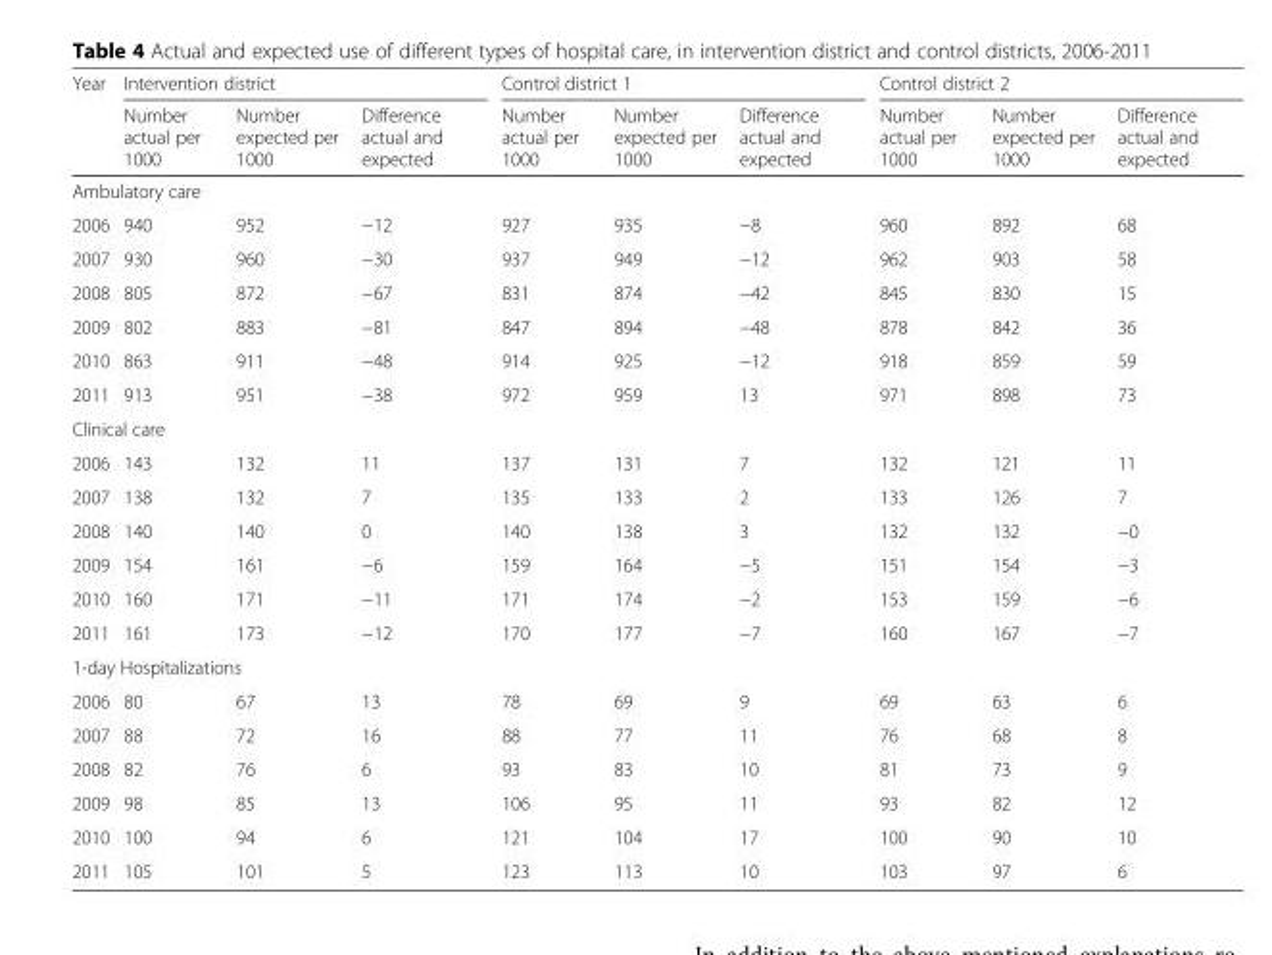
<table><thead><tr><td rowspan="2">Year</td><td colspan="3">Intervention district</td><td colspan="3">Control district 1</td><td colspan="3">Control district 2</td></tr><tr><td>Number actual per 1000</td><td>Number expected per 1000</td><td>Difference actual and expected</td><td>Number actual per 1000</td><td>Number expected per 1000</td><td>Difference actual and expected</td><td>Number actual per 1000</td><td>Number expected per 1000</td><td>Difference actual and expected</td></tr></thead><tbody><tr><td colspan="10">Ambulatory care</td></tr><tr><td>2006</td><td>940</td><td>952</td><td>−12</td><td>927</td><td>935</td><td>−8</td><td>960</td><td>892</td><td>68</td></tr><tr><td>2007</td><td>930</td><td>960</td><td>−30</td><td>937</td><td>949</td><td>−12</td><td>962</td><td>903</td><td>58</td></tr><tr><td>2008</td><td>805</td><td>872</td><td>−67</td><td>831</td><td>874</td><td>−42</td><td>845</td><td>830</td><td>15</td></tr><tr><td>2009</td><td>802</td><td>883</td><td>−81</td><td>847</td><td>894</td><td>−48</td><td>878</td><td>842</td><td>36</td></tr><tr><td>2010</td><td>863</td><td>911</td><td>−48</td><td>914</td><td>925</td><td>−12</td><td>918</td><td>859</td><td>59</td></tr><tr><td>2011</td><td>913</td><td>951</td><td>−38</td><td>972</td><td>959</td><td>13</td><td>971</td><td>898</td><td>73</td></tr><tr><td colspan="10">Clinical care</td></tr><tr><td>2006</td><td>143</td><td>132</td><td>11</td><td>137</td><td>131</td><td>7</td><td>132</td><td>121</td><td>11</td></tr><tr><td>2007</td><td>138</td><td>132</td><td>7</td><td>135</td><td>133</td><td>2</td><td>133</td><td>126</td><td>7</td></tr><tr><td>2008</td><td>140</td><td>140</td><td>0</td><td>140</td><td>138</td><td>3</td><td>132</td><td>132</td><td>−0</td></tr><tr><td>2009</td><td>154</td><td>161</td><td>−6</td><td>159</td><td>164</td><td>−5</td><td>151</td><td>154</td><td>−3</td></tr><tr><td>2010</td><td>160</td><td>171</td><td>−11</td><td>171</td><td>174</td><td>−2</td><td>153</td><td>159</td><td>−6</td></tr><tr><td>2011</td><td>161</td><td>173</td><td>−12</td><td>170</td><td>177</td><td>−7</td><td>160</td><td>167</td><td>−7</td></tr><tr><td colspan="10">1-day Hospitalizations</td></tr><tr><td>2006</td><td>80</td><td>67</td><td>13</td><td>78</td><td>69</td><td>9</td><td>69</td><td>63</td><td>6</td></tr><tr><td>2007</td><td>88</td><td>72</td><td>16</td><td>88</td><td>77</td><td>11</td><td>76</td><td>68</td><td>8</td></tr><tr><td>2008</td><td>82</td><td>76</td><td>6</td><td>93</td><td>83</td><td>10</td><td>81</td><td>73</td><td>9</td></tr><tr><td>2009</td><td>98</td><td>85</td><td>13</td><td>106</td><td>95</td><td>11</td><td>93</td><td>82</td><td>12</td></tr><tr><td>2010</td><td>100</td><td>94</td><td>6</td><td>121</td><td>104</td><td>17</td><td>100</td><td>90</td><td>10</td></tr><tr><td>2011</td><td>105</td><td>101</td><td>5</td><td>123</td><td>113</td><td>10</td><td>103</td><td>97</td><td>6</td></tr></tbody></table>